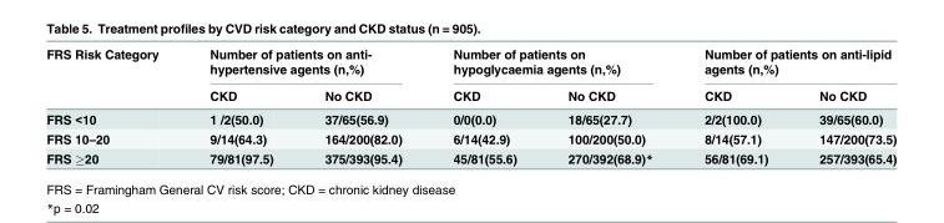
<table><thead><tr><td rowspan="2">FRS Risk Category</td><td colspan="2">Number of patients on anti- hypertensive agents (n,%)</td><td colspan="2">Number of patients on hypoglycaemia agents (n,%)</td><td colspan="2">Number of patients on anti-lipid agents (n,%)</td></tr><tr><td>CKD</td><td>No CKD</td><td>CKD</td><td>No CKD</td><td>CKD</td><td>No CKD</td></tr></thead><tbody><tr><td>FRS &lt;10</td><td>1 /2(50.0)</td><td>37/65(56.9)</td><td>0/0(0.0)</td><td>18/65(27.7)</td><td>2/2(100.0)</td><td>39/65(60.0)</td></tr><tr><td>FRS 10–20</td><td>9/14(64.3)</td><td>164/200(82.0)</td><td>6/14(42.9)</td><td>100/200(50.0)</td><td>8/14(57.1)</td><td>147/200(73.5)</td></tr><tr><td>FRS ≥20</td><td>79/81(97.5)</td><td>375/393(95.4)</td><td>45/81(55.6)</td><td>270/392(68.9)*</td><td>56/81(69.1)</td><td>257/393(65.4)</td></tr></tbody></table>